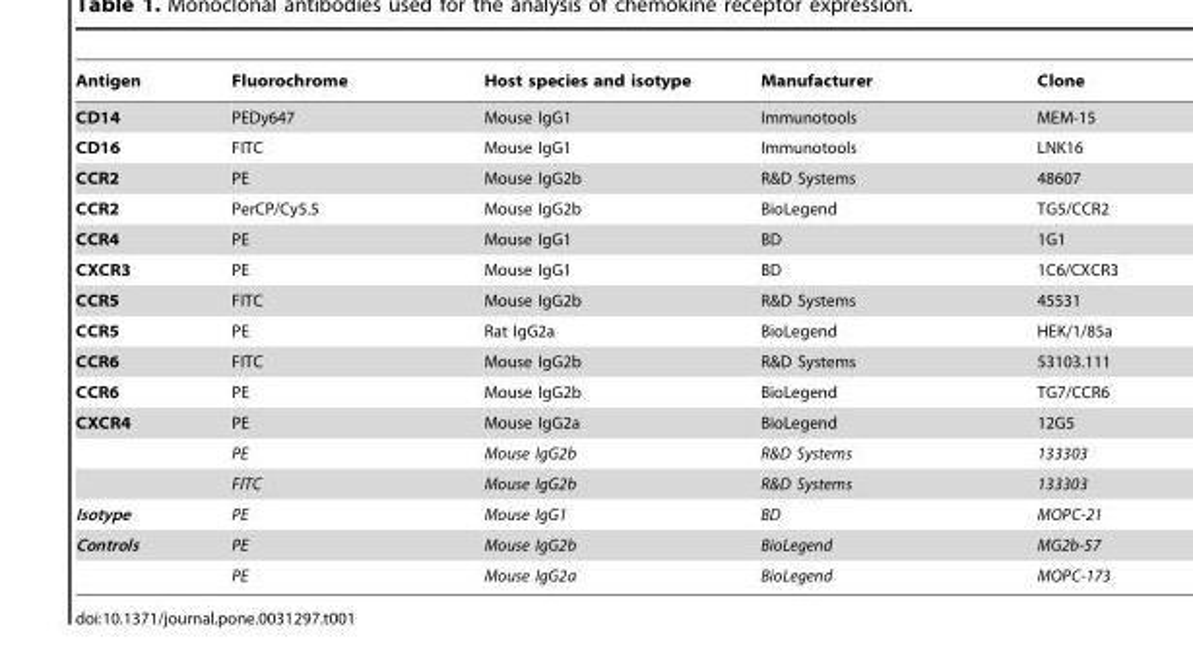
<table><thead><tr><td>Antigen</td><td>Fluorochrome</td><td>Host species and isotype</td><td>Manufacturer</td><td>Clone</td></tr></thead><tbody><tr><td>CD14</td><td>PEDy647</td><td>Mouse IgG1</td><td>Immunotools</td><td>MEM-15</td></tr><tr><td>CD16</td><td>FITC</td><td>Mouse IgG1</td><td>Immunotools</td><td>LNK16</td></tr><tr><td>CCR2</td><td>PE</td><td>Mouse IgG2b</td><td>R&amp;D Systems</td><td>48607</td></tr><tr><td>CCR2</td><td>PerCP/Cy5.5</td><td>Mouse IgG2b</td><td>BioLegend</td><td>TG5/CCR2</td></tr><tr><td>CCR4</td><td>PE</td><td>Mouse IgG1</td><td>BD</td><td>1G1</td></tr><tr><td>CXCR3</td><td>PE</td><td>Mouse IgG1</td><td>BD</td><td>1C6/CXCR3</td></tr><tr><td>CCR5</td><td>FITC</td><td>Mouse IgG2b</td><td>R&amp;D Systems</td><td>45531</td></tr><tr><td>CCR5</td><td>PE</td><td>Rat IgG2a</td><td>BioLegend</td><td>HEK/1/85a</td></tr><tr><td>CCR6</td><td>FITC</td><td>Mouse IgG2b</td><td>R&amp;D Systems</td><td>53103.111</td></tr><tr><td>CCR6</td><td>PE</td><td>Mouse IgG2b</td><td>BioLegend</td><td>TG7/CCR6</td></tr><tr><td rowspan="3">CXCR4</td><td>PE</td><td>Mouse IgG2a</td><td>BioLegend</td><td>12G5</td></tr><tr><td>PE</td><td>Mouse IgG2b</td><td>R&amp;D Systems</td><td>133303</td></tr><tr><td>FITC</td><td>Mouse IgG2b</td><td>R&amp;D Systems</td><td>133303</td></tr><tr><td>Isotype</td><td>PE</td><td>Mouse IgG1</td><td>BD</td><td>MOPC-21</td></tr><tr><td rowspan="2">Controls</td><td>PE</td><td>Mouse IgG2b</td><td>BioLegend</td><td>MG2b-57</td></tr><tr><td>PE</td><td>Mouse IgG2a</td><td>BioLegend</td><td>MOPC-173</td></tr></tbody></table>